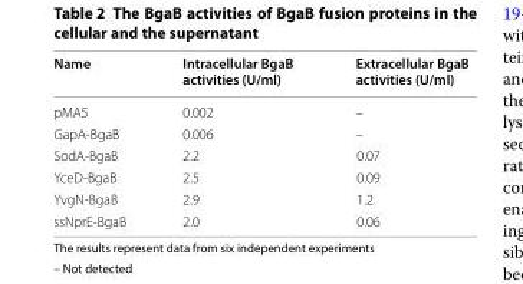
<table><thead><tr><td>Name</td><td>Intracellular BgaB activities (U/ml)</td><td>Extracellular BgaB activities (U/ml)</td></tr></thead><tbody><tr><td>pMA5</td><td>0.002</td><td>–</td></tr><tr><td>GapA-BgaB</td><td>0.006</td><td>–</td></tr><tr><td>SodA-BgaB</td><td>2.2</td><td>0.07</td></tr><tr><td>YceD-BgaB</td><td>2.5</td><td>0.09</td></tr><tr><td>YvgN-BgaB</td><td>2.9</td><td>1.2</td></tr><tr><td>ssNprE-BgaB</td><td>2.0</td><td>0.06</td></tr></tbody></table>